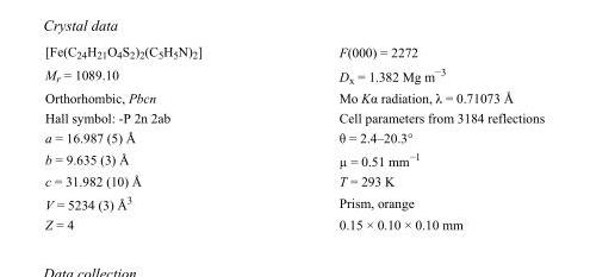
<table><tbody><tr><td>[Fe(C<sub>24</sub>H<sub>21</sub>O<sub>4</sub>S<sub>2</sub>)<sub>2</sub>(C<sub>5</sub>H<sub>5</sub>N)<sub>2</sub>]</td><td>F(000) = 2272</td></tr><tr><td>M<sub>r</sub> = 1089.10</td><td>D<sub>x</sub> = 1.382 Mg m<sup>−3</sup></td></tr><tr><td>Orthorhombic, Pbcn</td><td>Mo Kα radiation, λ = 0.71073 Å</td></tr><tr><td>Hall symbol: -P 2n 2ab</td><td>Cell parameters from 3184 reflections</td></tr><tr><td>a = 16.987 (5) Å</td><td>θ = 2.4–20.3°</td></tr><tr><td>b = 9.635 (3) Å</td><td>µ = 0.51 mm<sup>−1</sup></td></tr><tr><td>c = 31.982 (10) Å</td><td>T = 293 K</td></tr><tr><td>V = 5234 (3) Å<sup>3</sup></td><td>Prism, orange</td></tr><tr><td>Z = 4</td><td>0.15 × 0.10 × 0.10 mm</td></tr></tbody></table>